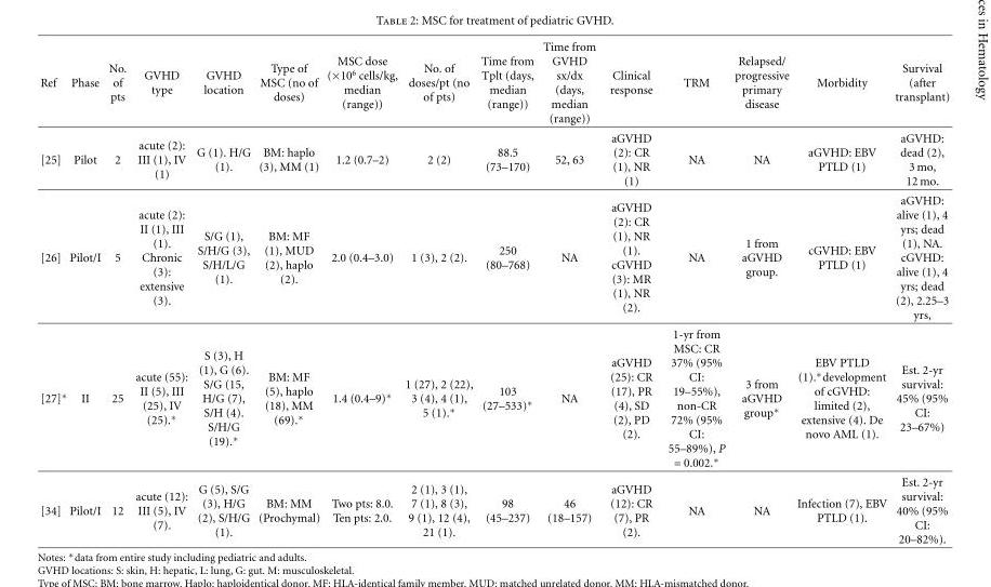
<table><thead><tr><td>Ref</td><td>Phase</td><td>No. of pts</td><td>GVHD type</td><td>GVHD location</td><td>Type of MSC (no of doses)</td><td>MSC dose (×10<sup>6</sup> cells/kg, median (range))</td><td>No. of doses/pt (no of pts)</td><td>Time from Tplt (days, median (range))</td><td>Time from GVHD sx/dx (days, median (range))</td><td>Clinical response</td><td>TRM</td><td>Relapsed/ progressive primary disease</td><td>Morbidity</td><td>Survival (after transplant)</td></tr></thead><tbody><tr><td>[25]</td><td>Pilot</td><td>2</td><td>acute (2): III (1), IV (1)</td><td>G (1). H/G (1).</td><td>BM: haplo (3), MM (1)</td><td>1.2 (0.7–2)</td><td>2 (2)</td><td>88.5 (73–170)</td><td>52, 63</td><td>aGVHD (2): CR (1), NR (1)</td><td>NA</td><td>NA</td><td>aGVHD: EBV PTLD (1)</td><td>aGVHD: dead (2), 3 mo, 12 mo.</td></tr><tr><td>[26]</td><td>Pilot/I</td><td>5</td><td>acute (2): II (1), III (1). Chronic (3): extensive (3).</td><td>S/G (1), S/H/G (3), S/H/L/G (1).</td><td>BM: MF (1), MUD (2), haplo (2).</td><td>2.0 (0.4–3.0)</td><td>1 (3), 2 (2).</td><td>250 (80–768)</td><td>NA</td><td>aGVHD (2): CR (1), NR (1). cGVHD (3): MR (1), NR (2).</td><td>NA</td><td>1 from aGVHD group.</td><td>cGVHD: EBV PTLD (1)</td><td>aGVHD: alive (1), 4 yrs; dead (1), NA. cGVHD: alive (1), 4 yrs; dead (2), 2.25–3 yrs,</td></tr><tr><td>[27]∗</td><td>II</td><td>25</td><td>acute (55): II (5), III (25), IV (25).∗</td><td>S (3), H (1), G (6). S/G (15, H/G (7), S/H (4). S/H/G (19).∗</td><td>BM: MF (5), haplo (18), MM (69).∗</td><td>1.4 (0.4–9)∗</td><td>1 (27), 2 (22), 3 (4), 4 (1), 5 (1).∗</td><td>103 (27–533)∗</td><td>NA</td><td>aGVHD (25): CR (17), PR (4), SD (2), PD (2).</td><td>1-yr from MSC: CR 37% (95% CI: 19–55%), non-CR 72% (95% CI: 55–89%), P = 0.002.∗</td><td>3 from aGVHD group∗</td><td>EBV PTLD (1).∗development of cGVHD: limited (2), extensive (4). De novo AML (1).</td><td>Est. 2-yr survival: 45% (95% CI: 23–67%)</td></tr><tr><td>[34]</td><td>Pilot/I</td><td>12</td><td>acute (12): III (5), IV (7).</td><td>G (5), S/G (3), H/G (2), S/H/G (1).</td><td>BM: MM (Prochymal)</td><td>Two pts: 8.0. Ten pts: 2.0.</td><td>2 (1), 3 (1), 7 (1), 8 (3), 9 (1), 12 (4), 21 (1).</td><td>98 (45–237)</td><td>46 (18–157)</td><td>aGVHD (12): CR (7), PR (2).</td><td>NA</td><td>NA</td><td>Infection (7), EBV PTLD (1).</td><td>Est. 2-yr survival: 40% (95% CI: 20–82%).</td></tr></tbody></table>